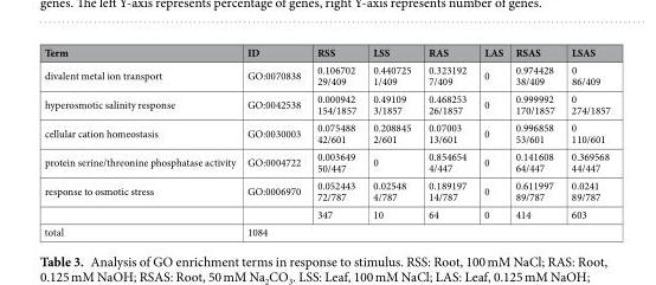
<table><thead><tr><td>Term</td><td>ID</td><td>RSS</td><td>LSS</td><td>RAS</td><td>LAS</td><td>RSAS</td><td>LSAS</td></tr></thead><tbody><tr><td>divalent metal ion transport</td><td>GO:0070838</td><td>0.106702 29/409</td><td>0.440725 1/409</td><td>0.323192 7/409</td><td>0</td><td>0.974428 38/409</td><td>0 86/409</td></tr><tr><td>hyperosmotic salinity response</td><td>GO:0042538</td><td>0.000942 154/1857</td><td>0.49109 3/1857</td><td>0.468253 26/1857</td><td>0</td><td>0.999992 170/1857</td><td>0 274/1857</td></tr><tr><td>cellular cation homeostasis</td><td>GO:0030003</td><td>0.075488 42/601</td><td>0.208845 2/601</td><td>0.07003 13/601</td><td>0</td><td>0.996858 53/601</td><td>0 110/601</td></tr><tr><td>protein serine/threonine phosphatase activity</td><td>GO:0004722</td><td>0.003649 50/447</td><td>0</td><td>0.854654 4/447</td><td>0</td><td>0.141608 64/447</td><td>0.369568 44/447</td></tr><tr><td rowspan="2">response to osmotic stress</td><td>GO:0006970</td><td>0.052443 72/787</td><td>0.02548 4/787</td><td>0.189197 14/787</td><td>0</td><td>0.611997 89/787</td><td>0.0241 89/787</td></tr><tr><td></td><td>347</td><td>10</td><td>64</td><td>0</td><td>414</td><td>603</td></tr><tr><td>total</td><td colspan="7">1084</td></tr></tbody></table>